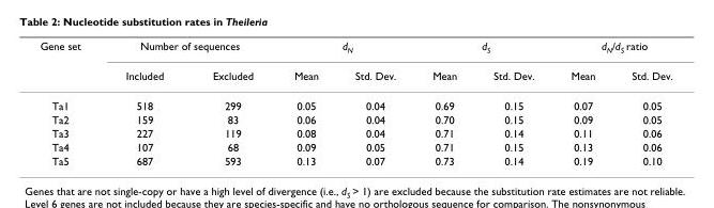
<table><thead><tr><td rowspan="2">Gene set</td><td colspan="2">Number of sequences</td><td colspan="2">d<sub>N</sub></td><td colspan="2">d<sub>S</sub></td><td colspan="2">d<sub>N</sub>/d<sub>S</sub> ratio</td></tr><tr><td>Included</td><td>Excluded</td><td>Mean</td><td>Std. Dev.</td><td>Mean</td><td>Std. Dev.</td><td>Mean</td><td>Std. Dev.</td></tr></thead><tbody><tr><td>Ta1</td><td>518</td><td>299</td><td>0.05</td><td>0.04</td><td>0.69</td><td>0.15</td><td>0.07</td><td>0.05</td></tr><tr><td>Ta2</td><td>159</td><td>83</td><td>0.06</td><td>0.04</td><td>0.70</td><td>0.15</td><td>0.09</td><td>0.05</td></tr><tr><td>Ta3</td><td>227</td><td>119</td><td>0.08</td><td>0.04</td><td>0.71</td><td>0.14</td><td>0.11</td><td>0.06</td></tr><tr><td>Ta4</td><td>107</td><td>68</td><td>0.09</td><td>0.05</td><td>0.71</td><td>0.15</td><td>0.13</td><td>0.06</td></tr><tr><td>Ta5</td><td>687</td><td>593</td><td>0.13</td><td>0.07</td><td>0.73</td><td>0.14</td><td>0.19</td><td>0.10</td></tr></tbody></table>